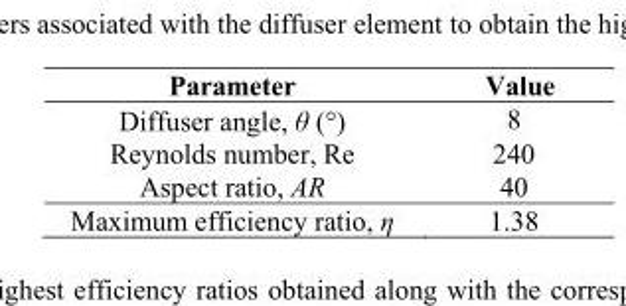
<table><thead><tr><td>Parameter</td><td>Value</td></tr></thead><tbody><tr><td>Diffuser angle, θ (°)</td><td>8</td></tr><tr><td>Reynolds number, Re</td><td>240</td></tr><tr><td>Aspect ratio, AR</td><td>40</td></tr><tr><td>Maximum efficiency ratio, η</td><td>1.38</td></tr></tbody></table>